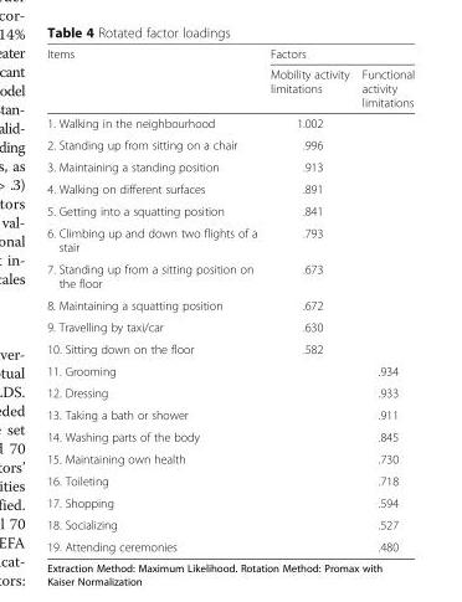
<table><thead><tr><td rowspan="2">Items</td><td colspan="2">Factors</td></tr><tr><td>Mobility activity limitations</td><td>Functional activity limitations</td></tr></thead><tbody><tr><td>1. Walking in the neighbourhood</td><td>1.002</td><td></td></tr><tr><td>2. Standing up from sitting on a chair</td><td>.996</td><td></td></tr><tr><td>3. Maintaining a standing position</td><td>.913</td><td></td></tr><tr><td>4. Walking on different surfaces</td><td>.891</td><td></td></tr><tr><td>5. Getting into a squatting position</td><td>.841</td><td></td></tr><tr><td>6. Climbing up and down two flights of a stair</td><td>.793</td><td></td></tr><tr><td>7. Standing up from a sitting position on the floor</td><td>.673</td><td></td></tr><tr><td>8. Maintaining a squatting position</td><td>.672</td><td></td></tr><tr><td>9. Travelling by taxi/car</td><td>.630</td><td></td></tr><tr><td>10. Sitting down on the floor</td><td>.582</td><td></td></tr><tr><td>11. Grooming</td><td></td><td>.934</td></tr><tr><td>12. Dressing</td><td></td><td>.933</td></tr><tr><td>13. Taking a bath or shower</td><td></td><td>.911</td></tr><tr><td>14. Washing parts of the body</td><td></td><td>.845</td></tr><tr><td>15. Maintaining own health</td><td></td><td>.730</td></tr><tr><td>16. Toileting</td><td></td><td>.718</td></tr><tr><td>17. Shopping</td><td></td><td>.594</td></tr><tr><td>18. Socializing</td><td></td><td>.527</td></tr><tr><td>19. Attending ceremonies</td><td></td><td>.480</td></tr></tbody></table>